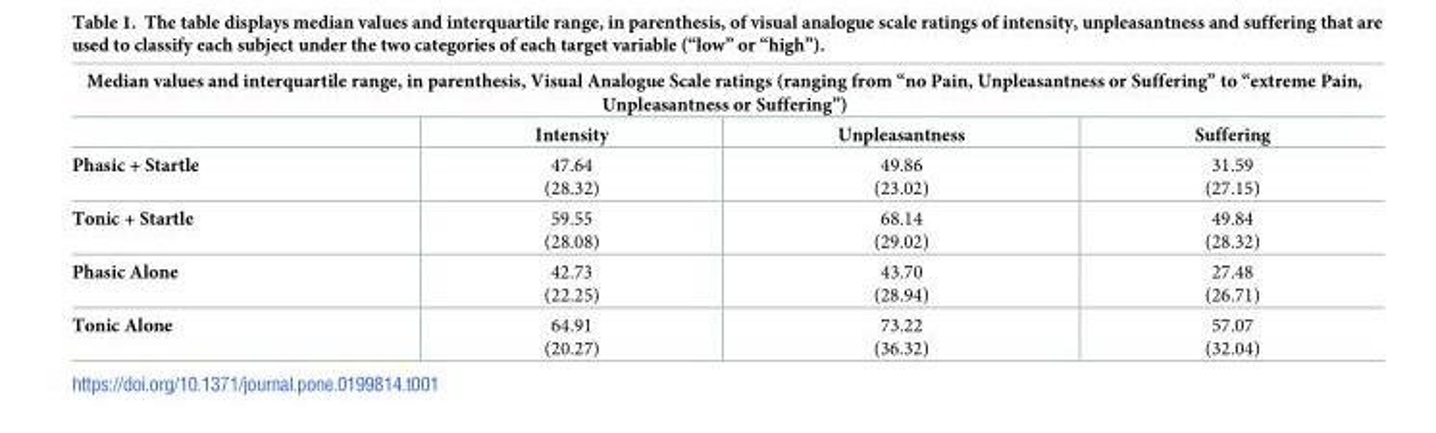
<table><thead><tr><td colspan="4">Median values and interquartile range, in parenthesis, Visual Analogue Scale ratings (ranging from “no Pain, Unpleasantness or Suffering” to “extreme Pain, Unpleasantness or Suffering”)</td></tr><tr><td></td><td>Intensity</td><td>Unpleasantness</td><td>Suffering</td></tr></thead><tbody><tr><td>Phasic + Startle</td><td>47.64 (28.32)</td><td>49.86 (23.02)</td><td>31.59 (27.15)</td></tr><tr><td>Tonic + Startle</td><td>59.55 (28.08)</td><td>68.14 (29.02)</td><td>49.84 (28.32)</td></tr><tr><td>Phasic Alone</td><td>42.73 (22.25)</td><td>43.70 (28.94)</td><td>27.48 (26.71)</td></tr><tr><td>Tonic Alone</td><td>64.91 (20.27)</td><td>73.22 (36.32)</td><td>57.07 (32.04)</td></tr></tbody></table>